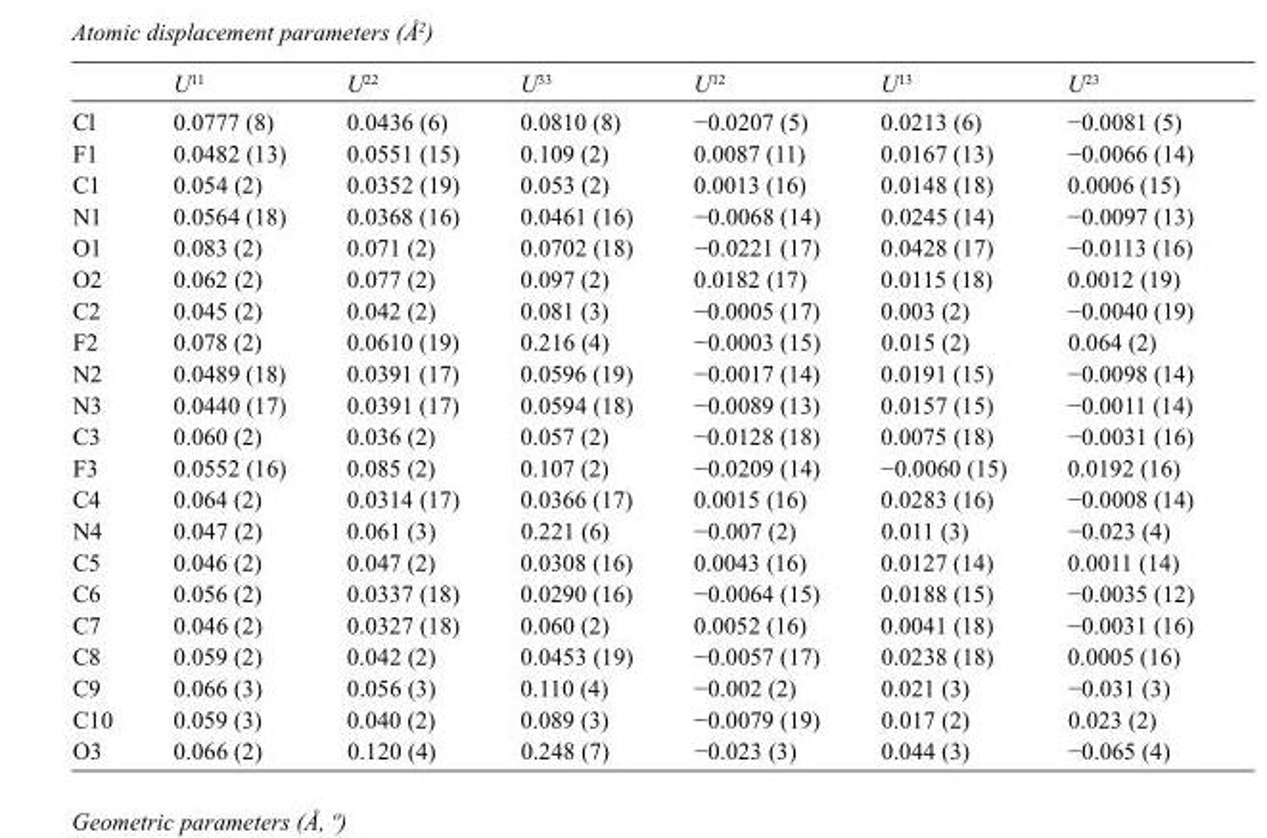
<table><thead><tr><td></td><td>U<sup>11</sup></td><td>U<sup>22</sup></td><td>U<sup>33</sup></td><td>U<sup>12</sup></td><td>U<sup>13</sup></td><td>U<sup>23</sup></td></tr></thead><tbody><tr><td>Cl</td><td>0.0777 (8)</td><td>0.0436 (6)</td><td>0.0810 (8)</td><td>−0.0207 (5)</td><td>0.0213 (6)</td><td>−0.0081 (5)</td></tr><tr><td>F1</td><td>0.0482 (13)</td><td>0.0551 (15)</td><td>0.109 (2)</td><td>0.0087 (11)</td><td>0.0167 (13)</td><td>−0.0066 (14)</td></tr><tr><td>C1</td><td>0.054 (2)</td><td>0.0352 (19)</td><td>0.053 (2)</td><td>0.0013 (16)</td><td>0.0148 (18)</td><td>0.0006 (15)</td></tr><tr><td>N1</td><td>0.0564 (18)</td><td>0.0368 (16)</td><td>0.0461 (16)</td><td>−0.0068 (14)</td><td>0.0245 (14)</td><td>−0.0097 (13)</td></tr><tr><td>O1</td><td>0.083 (2)</td><td>0.071 (2)</td><td>0.0702 (18)</td><td>−0.0221 (17)</td><td>0.0428 (17)</td><td>−0.0113 (16)</td></tr><tr><td>O2</td><td>0.062 (2)</td><td>0.077 (2)</td><td>0.097 (2)</td><td>0.0182 (17)</td><td>0.0115 (18)</td><td>0.0012 (19)</td></tr><tr><td>C2</td><td>0.045 (2)</td><td>0.042 (2)</td><td>0.081 (3)</td><td>−0.0005 (17)</td><td>0.003 (2)</td><td>−0.0040 (19)</td></tr><tr><td>F2</td><td>0.078 (2)</td><td>0.0610 (19)</td><td>0.216 (4)</td><td>−0.0003 (15)</td><td>0.015 (2)</td><td>0.064 (2)</td></tr><tr><td>N2</td><td>0.0489 (18)</td><td>0.0391 (17)</td><td>0.0596 (19)</td><td>−0.0017 (14)</td><td>0.0191 (15)</td><td>−0.0098 (14)</td></tr><tr><td>N3</td><td>0.0440 (17)</td><td>0.0391 (17)</td><td>0.0594 (18)</td><td>−0.0089 (13)</td><td>0.0157 (15)</td><td>−0.0011 (14)</td></tr><tr><td>C3</td><td>0.060 (2)</td><td>0.036 (2)</td><td>0.057 (2)</td><td>−0.0128 (18)</td><td>0.0075 (18)</td><td>−0.0031 (16)</td></tr><tr><td>F3</td><td>0.0552 (16)</td><td>0.085 (2)</td><td>0.107 (2)</td><td>−0.0209 (14)</td><td>−0.0060 (15)</td><td>0.0192 (16)</td></tr><tr><td>C4</td><td>0.064 (2)</td><td>0.0314 (17)</td><td>0.0366 (17)</td><td>0.0015 (16)</td><td>0.0283 (16)</td><td>−0.0008 (14)</td></tr><tr><td>N4</td><td>0.047 (2)</td><td>0.061 (3)</td><td>0.221 (6)</td><td>−0.007 (2)</td><td>0.011 (3)</td><td>−0.023 (4)</td></tr><tr><td>C5</td><td>0.046 (2)</td><td>0.047 (2)</td><td>0.0308 (16)</td><td>0.0043 (16)</td><td>0.0127 (14)</td><td>0.0011 (14)</td></tr><tr><td>C6</td><td>0.056 (2)</td><td>0.0337 (18)</td><td>0.0290 (16)</td><td>−0.0064 (15)</td><td>0.0188 (15)</td><td>−0.0035 (12)</td></tr><tr><td>C7</td><td>0.046 (2)</td><td>0.0327 (18)</td><td>0.060 (2)</td><td>0.0052 (16)</td><td>0.0041 (18)</td><td>−0.0031 (16)</td></tr><tr><td>C8</td><td>0.059 (2)</td><td>0.042 (2)</td><td>0.0453 (19)</td><td>−0.0057 (17)</td><td>0.0238 (18)</td><td>0.0005 (16)</td></tr><tr><td>C9</td><td>0.066 (3)</td><td>0.056 (3)</td><td>0.110 (4)</td><td>−0.002 (2)</td><td>0.021 (3)</td><td>−0.031 (3)</td></tr><tr><td>C10</td><td>0.059 (3)</td><td>0.040 (2)</td><td>0.089 (3)</td><td>−0.0079 (19)</td><td>0.017 (2)</td><td>0.023 (2)</td></tr><tr><td>O3</td><td>0.066 (2)</td><td>0.120 (4)</td><td>0.248 (7)</td><td>−0.023 (3)</td><td>0.044 (3)</td><td>−0.065 (4)</td></tr></tbody></table>